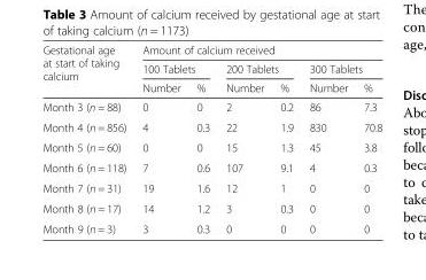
<table><thead><tr><td rowspan="3">Gestational age at start of taking calcium</td><td colspan="6">Amount of calcium received</td></tr><tr><td colspan="2">100 Tablets</td><td colspan="2">200 Tablets</td><td colspan="2">300 Tablets</td></tr><tr><td>Number</td><td>%</td><td>Number</td><td>%</td><td>Number</td><td>%</td></tr></thead><tbody><tr><td>Month 3 (n = 88)</td><td>0</td><td>0</td><td>2</td><td>0.2</td><td>86</td><td>7.3</td></tr><tr><td>Month 4 (n = 856)</td><td>4</td><td>0.3</td><td>22</td><td>1.9</td><td>830</td><td>70.8</td></tr><tr><td>Month 5 (n = 60)</td><td>0</td><td>0</td><td>15</td><td>1.3</td><td>45</td><td>3.8</td></tr><tr><td>Month 6 (n = 118)</td><td>7</td><td>0.6</td><td>107</td><td>9.1</td><td>4</td><td>0.3</td></tr><tr><td>Month 7 (n = 31)</td><td>19</td><td>1.6</td><td>12</td><td>1</td><td>0</td><td>0</td></tr><tr><td>Month 8 (n = 17)</td><td>14</td><td>1.2</td><td>3</td><td>0.3</td><td>0</td><td>0</td></tr><tr><td>Month 9 (n = 3)</td><td>3</td><td>0.3</td><td>0</td><td>0</td><td>0</td><td>0</td></tr></tbody></table>